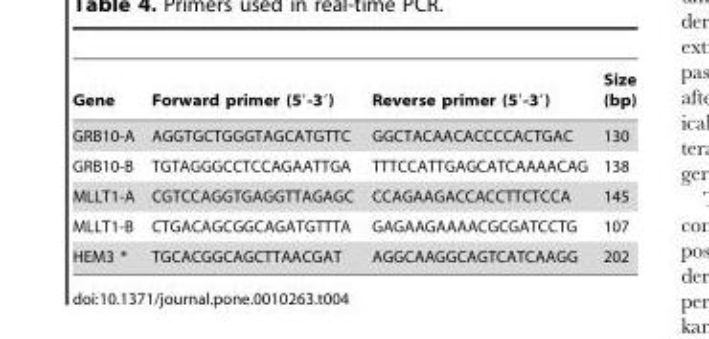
<table><thead><tr><td>Gene</td><td>Forward primer (5′-3′)</td><td>Reverse primer (5′-3′)</td><td>Size (bp)</td></tr></thead><tbody><tr><td>GRB10-A</td><td>AGGTGCTGGGTAGCATGTTC</td><td>GGCTACAACACCCCACTGAC</td><td>130</td></tr><tr><td>GRB10-B</td><td>TGTAGGGCCTCCAGAATTGA</td><td>TTTCCATTGAGCATCAAAACAG</td><td>138</td></tr><tr><td>MLLT1-A</td><td>CGTCCAGGTGAGGTTAGAGC</td><td>CCAGAAGACCACCTTCTCCA</td><td>145</td></tr><tr><td>MLLT1-B</td><td>CTGACAGCGGCAGATGTTTA</td><td>GAGAAGAAAACGCGATCCTG</td><td>107</td></tr><tr><td>HEM3 *</td><td>TGCACGGCAGCTTAACGAT</td><td>AGGCAAGGCAGTCATCAAGG</td><td>202</td></tr></tbody></table>